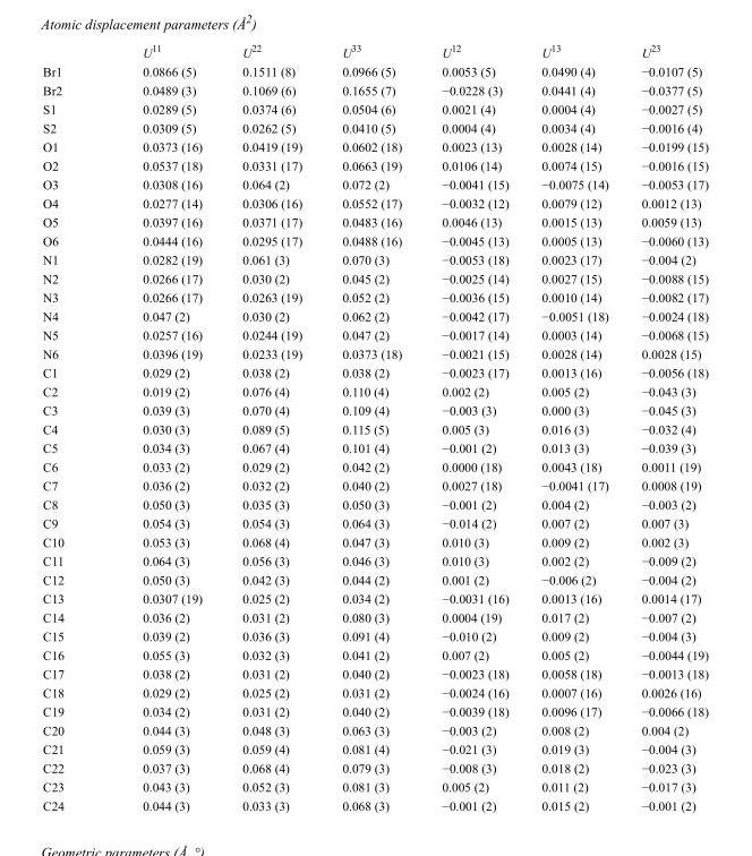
<table><thead><tr><td></td><td>U<sup>11</sup></td><td>U<sup>22</sup></td><td>U<sup>33</sup></td><td>U<sup>12</sup></td><td>U<sup>13</sup></td><td>U<sup>23</sup></td></tr></thead><tbody><tr><td>Br1</td><td>0.0866 (5)</td><td>0.1511 (8)</td><td>0.0966 (5)</td><td>0.0053 (5)</td><td>0.0490 (4)</td><td>−0.0107 (5)</td></tr><tr><td>Br2</td><td>0.0489 (3)</td><td>0.1069 (6)</td><td>0.1655 (7)</td><td>−0.0228 (3)</td><td>0.0441 (4)</td><td>−0.0377 (5)</td></tr><tr><td>S1</td><td>0.0289 (5)</td><td>0.0374 (6)</td><td>0.0504 (6)</td><td>0.0021 (4)</td><td>0.0004 (4)</td><td>−0.0027 (5)</td></tr><tr><td>S2</td><td>0.0309 (5)</td><td>0.0262 (5)</td><td>0.0410 (5)</td><td>0.0004 (4)</td><td>0.0034 (4)</td><td>−0.0016 (4)</td></tr><tr><td>O1</td><td>0.0373 (16)</td><td>0.0419 (19)</td><td>0.0602 (18)</td><td>0.0023 (13)</td><td>0.0028 (14)</td><td>−0.0199 (15)</td></tr><tr><td>O2</td><td>0.0537 (18)</td><td>0.0331 (17)</td><td>0.0663 (19)</td><td>0.0106 (14)</td><td>0.0074 (15)</td><td>−0.0016 (15)</td></tr><tr><td>O3</td><td>0.0308 (16)</td><td>0.064 (2)</td><td>0.072 (2)</td><td>−0.0041 (15)</td><td>−0.0075 (14)</td><td>−0.0053 (17)</td></tr><tr><td>O4</td><td>0.0277 (14)</td><td>0.0306 (16)</td><td>0.0552 (17)</td><td>−0.0032 (12)</td><td>0.0079 (12)</td><td>0.0012 (13)</td></tr><tr><td>O5</td><td>0.0397 (16)</td><td>0.0371 (17)</td><td>0.0483 (16)</td><td>0.0046 (13)</td><td>0.0015 (13)</td><td>0.0059 (13)</td></tr><tr><td>O6</td><td>0.0444 (16)</td><td>0.0295 (17)</td><td>0.0488 (16)</td><td>−0.0045 (13)</td><td>0.0005 (13)</td><td>−0.0060 (13)</td></tr><tr><td>N1</td><td>0.0282 (19)</td><td>0.061 (3)</td><td>0.070 (3)</td><td>−0.0053 (18)</td><td>0.0023 (17)</td><td>−0.004 (2)</td></tr><tr><td>N2</td><td>0.0266 (17)</td><td>0.030 (2)</td><td>0.045 (2)</td><td>−0.0025 (14)</td><td>0.0027 (15)</td><td>−0.0088 (15)</td></tr><tr><td>N3</td><td>0.0266 (17)</td><td>0.0263 (19)</td><td>0.052 (2)</td><td>−0.0036 (15)</td><td>0.0010 (14)</td><td>−0.0082 (17)</td></tr><tr><td>N4</td><td>0.047 (2)</td><td>0.030 (2)</td><td>0.062 (2)</td><td>−0.0042 (17)</td><td>−0.0051 (18)</td><td>−0.0024 (18)</td></tr><tr><td>N5</td><td>0.0257 (16)</td><td>0.0244 (19)</td><td>0.047 (2)</td><td>−0.0017 (14)</td><td>0.0003 (14)</td><td>−0.0068 (15)</td></tr><tr><td>N6</td><td>0.0396 (19)</td><td>0.0233 (19)</td><td>0.0373 (18)</td><td>−0.0021 (15)</td><td>0.0028 (14)</td><td>0.0028 (15)</td></tr><tr><td>C1</td><td>0.029 (2)</td><td>0.038 (2)</td><td>0.038 (2)</td><td>−0.0023 (17)</td><td>0.0013 (16)</td><td>−0.0056 (18)</td></tr><tr><td>C2</td><td>0.019 (2)</td><td>0.076 (4)</td><td>0.110 (4)</td><td>0.002 (2)</td><td>0.005 (2)</td><td>−0.043 (3)</td></tr><tr><td>C3</td><td>0.039 (3)</td><td>0.070 (4)</td><td>0.109 (4)</td><td>−0.003 (3)</td><td>0.000 (3)</td><td>−0.045 (3)</td></tr><tr><td>C4</td><td>0.030 (3)</td><td>0.089 (5)</td><td>0.115 (5)</td><td>0.005 (3)</td><td>0.016 (3)</td><td>−0.032 (4)</td></tr><tr><td>C5</td><td>0.034 (3)</td><td>0.067 (4)</td><td>0.101 (4)</td><td>−0.001 (2)</td><td>0.013 (3)</td><td>−0.039 (3)</td></tr><tr><td>C6</td><td>0.033 (2)</td><td>0.029 (2)</td><td>0.042 (2)</td><td>0.0000 (18)</td><td>0.0043 (18)</td><td>0.0011 (19)</td></tr><tr><td>C7</td><td>0.036 (2)</td><td>0.032 (2)</td><td>0.040 (2)</td><td>0.0027 (18)</td><td>−0.0041 (17)</td><td>0.0008 (19)</td></tr><tr><td>C8</td><td>0.050 (3)</td><td>0.035 (3)</td><td>0.050 (3)</td><td>−0.001 (2)</td><td>0.004 (2)</td><td>−0.003 (2)</td></tr><tr><td>C9</td><td>0.054 (3)</td><td>0.054 (3)</td><td>0.064 (3)</td><td>−0.014 (2)</td><td>0.007 (2)</td><td>0.007 (3)</td></tr><tr><td>C10</td><td>0.053 (3)</td><td>0.068 (4)</td><td>0.047 (3)</td><td>0.010 (3)</td><td>0.009 (2)</td><td>0.002 (3)</td></tr><tr><td>C11</td><td>0.064 (3)</td><td>0.056 (3)</td><td>0.046 (3)</td><td>0.010 (3)</td><td>0.002 (2)</td><td>−0.009 (2)</td></tr><tr><td>C12</td><td>0.050 (3)</td><td>0.042 (3)</td><td>0.044 (2)</td><td>0.001 (2)</td><td>−0.006 (2)</td><td>−0.004 (2)</td></tr><tr><td>C13</td><td>0.0307 (19)</td><td>0.025 (2)</td><td>0.034 (2)</td><td>−0.0031 (16)</td><td>0.0013 (16)</td><td>0.0014 (17)</td></tr><tr><td>C14</td><td>0.036 (2)</td><td>0.031 (2)</td><td>0.080 (3)</td><td>0.0004 (19)</td><td>0.017 (2)</td><td>−0.007 (2)</td></tr><tr><td>C15</td><td>0.039 (2)</td><td>0.036 (3)</td><td>0.091 (4)</td><td>−0.010 (2)</td><td>0.009 (2)</td><td>−0.004 (3)</td></tr><tr><td>C16</td><td>0.055 (3)</td><td>0.032 (3)</td><td>0.041 (2)</td><td>0.007 (2)</td><td>0.005 (2)</td><td>−0.0044 (19)</td></tr><tr><td>C17</td><td>0.038 (2)</td><td>0.031 (2)</td><td>0.040 (2)</td><td>−0.0023 (18)</td><td>0.0058 (18)</td><td>−0.0013 (18)</td></tr><tr><td>C18</td><td>0.029 (2)</td><td>0.025 (2)</td><td>0.031 (2)</td><td>−0.0024 (16)</td><td>0.0007 (16)</td><td>0.0026 (16)</td></tr><tr><td>C19</td><td>0.034 (2)</td><td>0.031 (2)</td><td>0.040 (2)</td><td>−0.0039 (18)</td><td>0.0096 (17)</td><td>−0.0066 (18)</td></tr><tr><td>C20</td><td>0.044 (3)</td><td>0.048 (3)</td><td>0.063 (3)</td><td>−0.003 (2)</td><td>0.008 (2)</td><td>0.004 (2)</td></tr><tr><td>C21</td><td>0.059 (3)</td><td>0.059 (4)</td><td>0.081 (4)</td><td>−0.021 (3)</td><td>0.019 (3)</td><td>−0.004 (3)</td></tr><tr><td>C22</td><td>0.037 (3)</td><td>0.068 (4)</td><td>0.079 (3)</td><td>−0.008 (3)</td><td>0.018 (2)</td><td>−0.023 (3)</td></tr><tr><td>C23</td><td>0.043 (3)</td><td>0.052 (3)</td><td>0.081 (3)</td><td>0.005 (2)</td><td>0.011 (2)</td><td>−0.017 (3)</td></tr><tr><td>C24</td><td>0.044 (3)</td><td>0.033 (3)</td><td>0.068 (3)</td><td>−0.001 (2)</td><td>0.015 (2)</td><td>−0.001 (2)</td></tr></tbody></table>